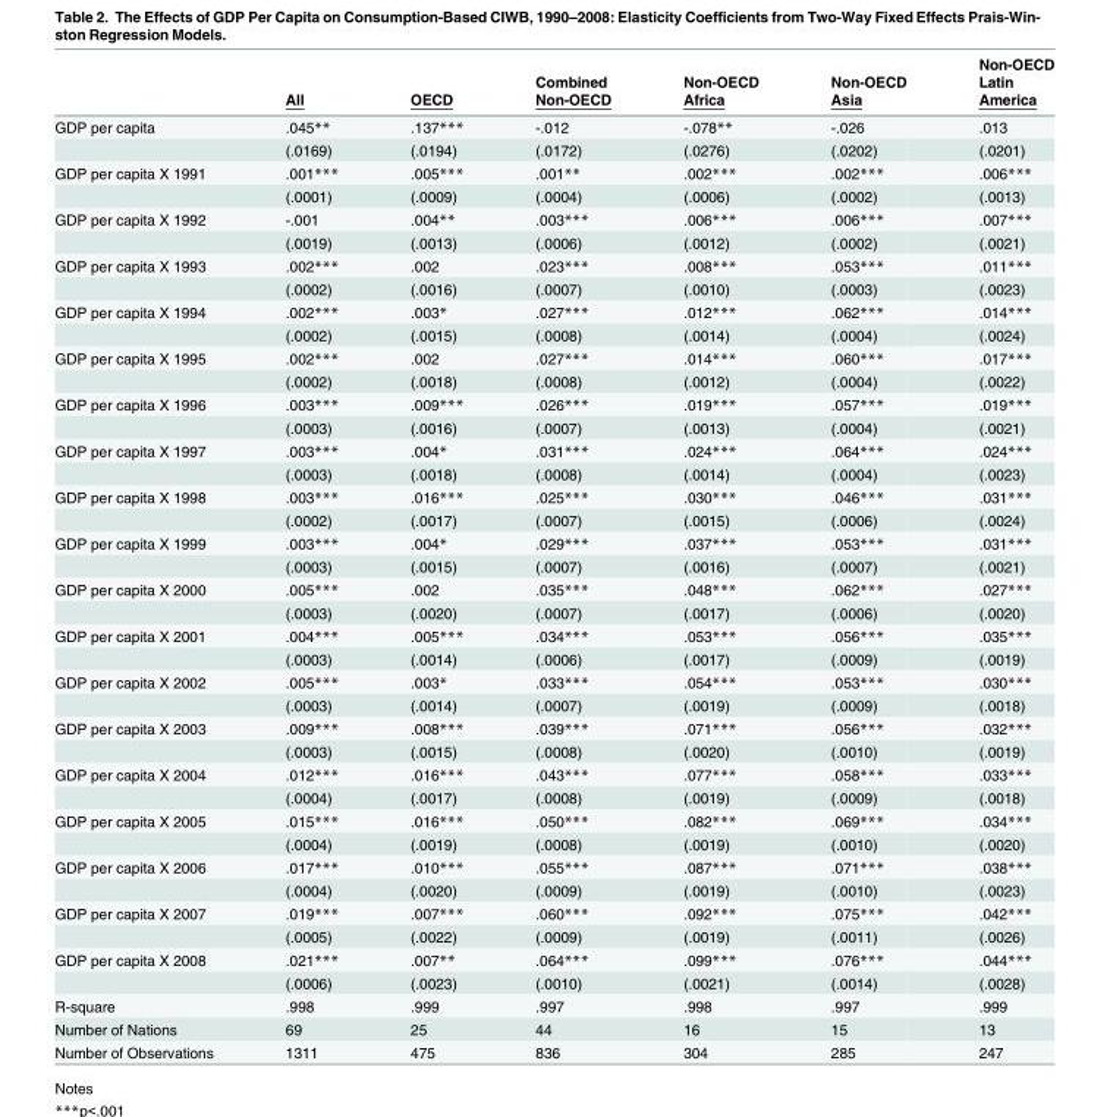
<table><thead><tr><td rowspan="3"></td><td rowspan="3">All</td><td rowspan="3">OECD</td><td rowspan="3">Combined Non-OECD</td><td rowspan="3">Non-OECD Africa</td><td rowspan="3">Non-OECD Asia</td><td rowspan="3">Non-OECD Latin America</td></tr><tr></tr><tr></tr></thead><tbody><tr><td rowspan="2">GDP per capita</td><td>.045**</td><td>.137***</td><td>-.012</td><td>-.078**</td><td>-.026</td><td>.013</td></tr><tr><td>(.0169)</td><td>(.0194)</td><td>(.0172)</td><td>(.0276)</td><td>(.0202)</td><td>(.0201)</td></tr><tr><td rowspan="2">GDP per capita X 1991</td><td>.001***</td><td>.005***</td><td>.001**</td><td>.002***</td><td>.002***</td><td>.006***</td></tr><tr><td>(.0001)</td><td>(.0009)</td><td>(.0004)</td><td>(.0006)</td><td>(.0002)</td><td>(.0013)</td></tr><tr><td rowspan="2">GDP per capita X 1992</td><td>-.001</td><td>.004**</td><td>.003***</td><td>.006***</td><td>.006***</td><td>.007***</td></tr><tr><td>(.0019)</td><td>(.0013)</td><td>(.0006)</td><td>(.0012)</td><td>(.0002)</td><td>(.0021)</td></tr><tr><td rowspan="2">GDP per capita X 1993</td><td>.002***</td><td>.002</td><td>.023***</td><td>.008***</td><td>.053***</td><td>.011***</td></tr><tr><td>(.0002)</td><td>(.0016)</td><td>(.0007)</td><td>(.0010)</td><td>(.0003)</td><td>(.0023)</td></tr><tr><td rowspan="2">GDP per capita X 1994</td><td>.002***</td><td>.003*</td><td>.027***</td><td>.012***</td><td>.062***</td><td>.014***</td></tr><tr><td>(.0002)</td><td>(.0015)</td><td>(.0008)</td><td>(.0014)</td><td>(.0004)</td><td>(.0024)</td></tr><tr><td rowspan="2">GDP per capita X 1995</td><td>.002***</td><td>.002</td><td>.027***</td><td>.014***</td><td>.060***</td><td>.017***</td></tr><tr><td>(.0002)</td><td>(.0018)</td><td>(.0008)</td><td>(.0012)</td><td>(.0004)</td><td>(.0022)</td></tr><tr><td rowspan="2">GDP per capita X 1996</td><td>.003***</td><td>.009***</td><td>.026***</td><td>.019***</td><td>.057***</td><td>.019***</td></tr><tr><td>(.0003)</td><td>(.0016)</td><td>(.0007)</td><td>(.0013)</td><td>(.0004)</td><td>(.0021)</td></tr><tr><td rowspan="2">GDP per capita X 1997</td><td>.003***</td><td>.004*</td><td>.031***</td><td>.024***</td><td>.064***</td><td>.024***</td></tr><tr><td>(.0003)</td><td>(.0018)</td><td>(.0008)</td><td>(.0014)</td><td>(.0004)</td><td>(.0023)</td></tr><tr><td rowspan="2">GDP per capita X 1998</td><td>.003***</td><td>.016***</td><td>.025***</td><td>.030***</td><td>.046***</td><td>.031***</td></tr><tr><td>(.0002)</td><td>(.0017)</td><td>(.0007)</td><td>(.0015)</td><td>(.0006)</td><td>(.0024)</td></tr><tr><td rowspan="2">GDP per capita X 1999</td><td>.003***</td><td>.004*</td><td>.029***</td><td>.037***</td><td>.053***</td><td>.031***</td></tr><tr><td>(.0003)</td><td>(.0015)</td><td>(.0007)</td><td>(.0016)</td><td>(.0007)</td><td>(.0021)</td></tr><tr><td rowspan="2">GDP per capita X 2000</td><td>.005***</td><td>.002</td><td>.035***</td><td>.048***</td><td>.062***</td><td>.027***</td></tr><tr><td>(.0003)</td><td>(.0020)</td><td>(.0007)</td><td>(.0017)</td><td>(.0006)</td><td>(.0020)</td></tr><tr><td rowspan="2">GDP per capita X 2001</td><td>.004***</td><td>.005***</td><td>.034***</td><td>.053***</td><td>.056***</td><td>.035***</td></tr><tr><td>(.0003)</td><td>(.0014)</td><td>(.0006)</td><td>(.0017)</td><td>(.0009)</td><td>(.0019)</td></tr><tr><td rowspan="2">GDP per capita X 2002</td><td>.005***</td><td>.003*</td><td>.033***</td><td>.054***</td><td>.053***</td><td>.030***</td></tr><tr><td>(.0003)</td><td>(.0014)</td><td>(.0007)</td><td>(.0019)</td><td>(.0009)</td><td>(.0018)</td></tr><tr><td rowspan="2">GDP per capita X 2003</td><td>.009***</td><td>.008***</td><td>.039***</td><td>.071***</td><td>.056***</td><td>.032***</td></tr><tr><td>(.0003)</td><td>(.0015)</td><td>(.0008)</td><td>(.0020)</td><td>(.0010)</td><td>(.0019)</td></tr><tr><td rowspan="2">GDP per capita X 2004</td><td>.012***</td><td>.016***</td><td>.043***</td><td>.077***</td><td>.058***</td><td>.033***</td></tr><tr><td>(.0004)</td><td>(.0017)</td><td>(.0008)</td><td>(.0019)</td><td>(.0009)</td><td>(.0018)</td></tr><tr><td rowspan="2">GDP per capita X 2005</td><td>.015***</td><td>.016***</td><td>.050***</td><td>.082***</td><td>.069***</td><td>.034***</td></tr><tr><td>(.0004)</td><td>(.0019)</td><td>(.0008)</td><td>(.0019)</td><td>(.0010)</td><td>(.0020)</td></tr><tr><td rowspan="2">GDP per capita X 2006</td><td>.017***</td><td>.010***</td><td>.055***</td><td>.087***</td><td>.071***</td><td>.038***</td></tr><tr><td>(.0004)</td><td>(.0020)</td><td>(.0009)</td><td>(.0019)</td><td>(.0010)</td><td>(.0023)</td></tr><tr><td rowspan="2">GDP per capita X 2007</td><td>.019***</td><td>.007***</td><td>.060***</td><td>.092***</td><td>.075***</td><td>.042***</td></tr><tr><td>(.0005)</td><td>(.0022)</td><td>(.0009)</td><td>(.0019)</td><td>(.0011)</td><td>(.0026)</td></tr><tr><td rowspan="2">GDP per capita X 2008</td><td>.021***</td><td>.007**</td><td>.064***</td><td>.099***</td><td>.076***</td><td>.044***</td></tr><tr><td>(.0006)</td><td>(.0023)</td><td>(.0010)</td><td>(.0021)</td><td>(.0014)</td><td>(.0028)</td></tr><tr><td>R-square</td><td>.998</td><td>.999</td><td>.997</td><td>.998</td><td>.997</td><td>.999</td></tr><tr><td>Number of Nations</td><td>69</td><td>25</td><td>44</td><td>16</td><td>15</td><td>13</td></tr><tr><td>Number of Observations</td><td>1311</td><td>475</td><td>836</td><td>304</td><td>285</td><td>247</td></tr></tbody></table>